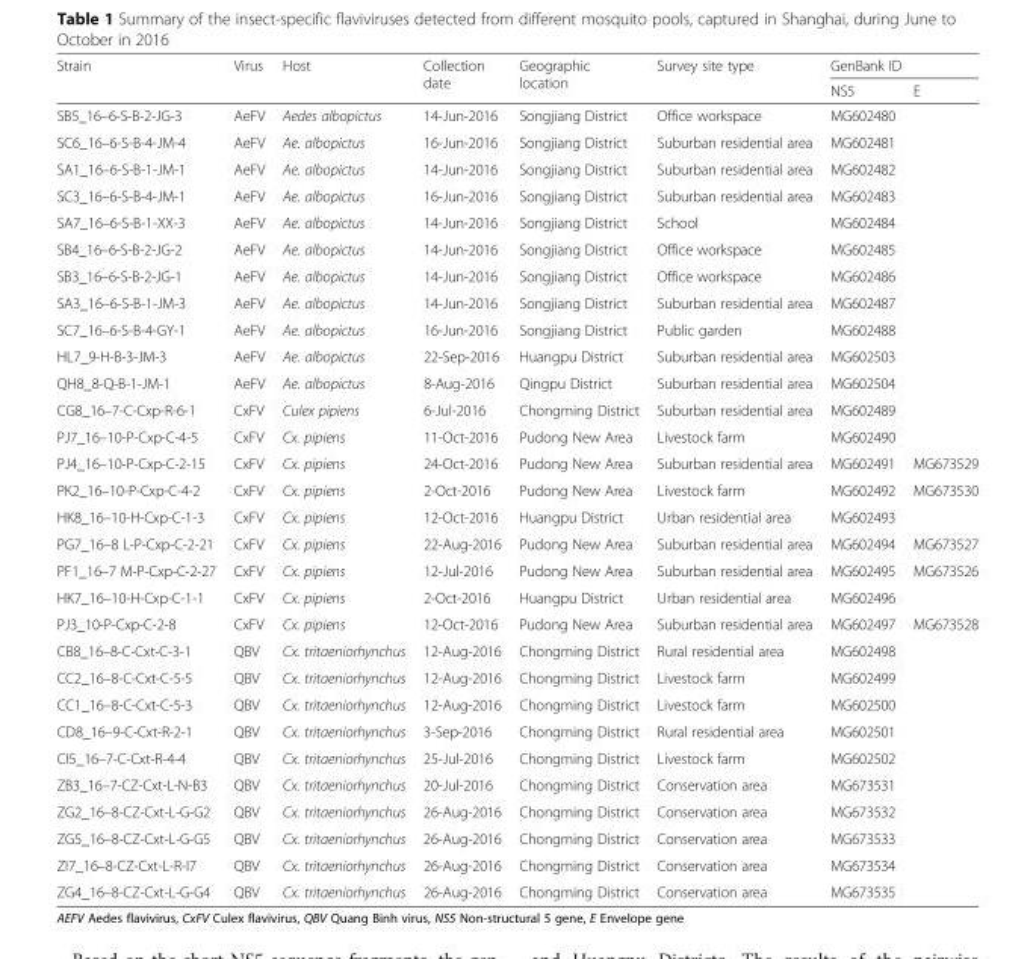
<table><thead><tr><td rowspan="2">Strain</td><td rowspan="2">Virus</td><td rowspan="2">Host</td><td rowspan="2">Collection date</td><td rowspan="2">Geographic location</td><td rowspan="2">Survey site type</td><td colspan="2">GenBank ID</td></tr><tr><td>NS5</td><td>E</td></tr></thead><tbody><tr><td>SB5_16–6-S-B-2-JG-3</td><td>AeFV</td><td>Aedes albopictus</td><td>14-Jun-2016</td><td>Songjiang District</td><td>Office workspace</td><td>MG602480</td><td></td></tr><tr><td>SC6_16–6-S-B-4-JM-4</td><td>AeFV</td><td>Ae. albopictus</td><td>16-Jun-2016</td><td>Songjiang District</td><td>Suburban residential area</td><td>MG602481</td><td></td></tr><tr><td>SA1_16–6-S-B-1-JM-1</td><td>AeFV</td><td>Ae. albopictus</td><td>14-Jun-2016</td><td>Songjiang District</td><td>Suburban residential area</td><td>MG602482</td><td></td></tr><tr><td>SC3_16–6-S-B-4-JM-1</td><td>AeFV</td><td>Ae. albopictus</td><td>16-Jun-2016</td><td>Songjiang District</td><td>Suburban residential area</td><td>MG602483</td><td></td></tr><tr><td>SA7_16–6-S-B-1-XX-3</td><td>AeFV</td><td>Ae. albopictus</td><td>14-Jun-2016</td><td>Songjiang District</td><td>School</td><td>MG602484</td><td></td></tr><tr><td>SB4_16–6-S-B-2-JG-2</td><td>AeFV</td><td>Ae. albopictus</td><td>14-Jun-2016</td><td>Songjiang District</td><td>Office workspace</td><td>MG602485</td><td></td></tr><tr><td>SB3_16–6-S-B-2-JG-1</td><td>AeFV</td><td>Ae. albopictus</td><td>14-Jun-2016</td><td>Songjiang District</td><td>Office workspace</td><td>MG602486</td><td></td></tr><tr><td>SA3_16–6-S-B-1-JM-3</td><td>AeFV</td><td>Ae. albopictus</td><td>14-Jun-2016</td><td>Songjiang District</td><td>Suburban residential area</td><td>MG602487</td><td></td></tr><tr><td>SC7_16–6-S-B-4-GY-1</td><td>AeFV</td><td>Ae. albopictus</td><td>16-Jun-2016</td><td>Songjiang District</td><td>Public garden</td><td>MG602488</td><td></td></tr><tr><td>HL7_9-H-B-3-JM-3</td><td>AeFV</td><td>Ae. albopictus</td><td>22-Sep-2016</td><td>Huangpu District</td><td>Suburban residential area</td><td>MG602503</td><td></td></tr><tr><td>QH8_8-Q-B-1-JM-1</td><td>AeFV</td><td>Ae. albopictus</td><td>8-Aug-2016</td><td>Qingpu District</td><td>Suburban residential area</td><td>MG602504</td><td></td></tr><tr><td>CG8_16–7-C-Cxp-R-6-1</td><td>CxFV</td><td>Culex pipiens</td><td>6-Jul-2016</td><td>Chongming District</td><td>Suburban residential area</td><td>MG602489</td><td></td></tr><tr><td>PJ7_16–10-P-Cxp-C-4-5</td><td>CxFV</td><td>Cx. pipiens</td><td>11-Oct-2016</td><td>Pudong New Area</td><td>Livestock farm</td><td>MG602490</td><td></td></tr><tr><td>PJ4_16–10-P-Cxp-C-2-15</td><td>CxFV</td><td>Cx. pipiens</td><td>24-Oct-2016</td><td>Pudong New Area</td><td>Suburban residential area</td><td>MG602491</td><td>MG673529</td></tr><tr><td>PK2_16–10-P-Cxp-C-4-2</td><td>CxFV</td><td>Cx. pipiens</td><td>2-Oct-2016</td><td>Pudong New Area</td><td>Livestock farm</td><td>MG602492</td><td>MG673530</td></tr><tr><td>HK8_16–10-H-Cxp-C-1-3</td><td>CxFV</td><td>Cx. pipiens</td><td>12-Oct-2016</td><td>Huangpu District</td><td>Urban residential area</td><td>MG602493</td><td></td></tr><tr><td>PG7_16–8 L-P-Cxp-C-2-21</td><td>CxFV</td><td>Cx. pipiens</td><td>22-Aug-2016</td><td>Pudong New Area</td><td>Suburban residential area</td><td>MG602494</td><td>MG673527</td></tr><tr><td>PF1_16–7 M-P-Cxp-C-2-27</td><td>CxFV</td><td>Cx. pipiens</td><td>12-Jul-2016</td><td>Pudong New Area</td><td>Suburban residential area</td><td>MG602495</td><td>MG673526</td></tr><tr><td>HK7_16–10-H-Cxp-C-1-1</td><td>CxFV</td><td>Cx. pipiens</td><td>2-Oct-2016</td><td>Huangpu District</td><td>Urban residential area</td><td>MG602496</td><td></td></tr><tr><td>PJ3_10-P-Cxp-C-2-8</td><td>CxFV</td><td>Cx. pipiens</td><td>12-Oct-2016</td><td>Pudong New Area</td><td>Suburban residential area</td><td>MG602497</td><td>MG673528</td></tr><tr><td>CB8_16–8-C-Cxt-C-3-1</td><td>QBV</td><td>Cx. tritaeniorhynchus</td><td>12-Aug-2016</td><td>Chongming District</td><td>Rural residential area</td><td>MG602498</td><td></td></tr><tr><td>CC2_16–8-C-Cxt-C-5-5</td><td>QBV</td><td>Cx. tritaeniorhynchus</td><td>12-Aug-2016</td><td>Chongming District</td><td>Livestock farm</td><td>MG602499</td><td></td></tr><tr><td>CC1_16–8-C-Cxt-C-5-3</td><td>QBV</td><td>Cx. tritaeniorhynchus</td><td>12-Aug-2016</td><td>Chongming District</td><td>Livestock farm</td><td>MG602500</td><td></td></tr><tr><td>CD8_16–9-C-Cxt-R-2-1</td><td>QBV</td><td>Cx. tritaeniorhynchus</td><td>3-Sep-2016</td><td>Chongming District</td><td>Rural residential area</td><td>MG602501</td><td></td></tr><tr><td>CI5_16–7-C-Cxt-R-4-4</td><td>QBV</td><td>Cx. tritaeniorhynchus</td><td>25-Jul-2016</td><td>Chongming District</td><td>Livestock farm</td><td>MG602502</td><td></td></tr><tr><td>ZB3_16–7-CZ-Cxt-L-N-B3</td><td>QBV</td><td>Cx. tritaeniorhynchus</td><td>20-Jul-2016</td><td>Chongming District</td><td>Conservation area</td><td>MG673531</td><td></td></tr><tr><td>ZG2_16–8-CZ-Cxt-L-G-G2</td><td>QBV</td><td>Cx. tritaeniorhynchus</td><td>26-Aug-2016</td><td>Chongming District</td><td>Conservation area</td><td>MG673532</td><td></td></tr><tr><td>ZG5_16–8-CZ-Cxt-L-G-G5</td><td>QBV</td><td>Cx. tritaeniorhynchus</td><td>26-Aug-2016</td><td>Chongming District</td><td>Conservation area</td><td>MG673533</td><td></td></tr><tr><td>ZI7_16–8-CZ-Cxt-L-R-I7</td><td>QBV</td><td>Cx. tritaeniorhynchus</td><td>26-Aug-2016</td><td>Chongming District</td><td>Conservation area</td><td>MG673534</td><td></td></tr><tr><td>ZG4_16–8-CZ-Cxt-L-G-G4</td><td>QBV</td><td>Cx. tritaeniorhynchus</td><td>26-Aug-2016</td><td>Chongming District</td><td>Conservation area</td><td>MG673535</td><td></td></tr></tbody></table>